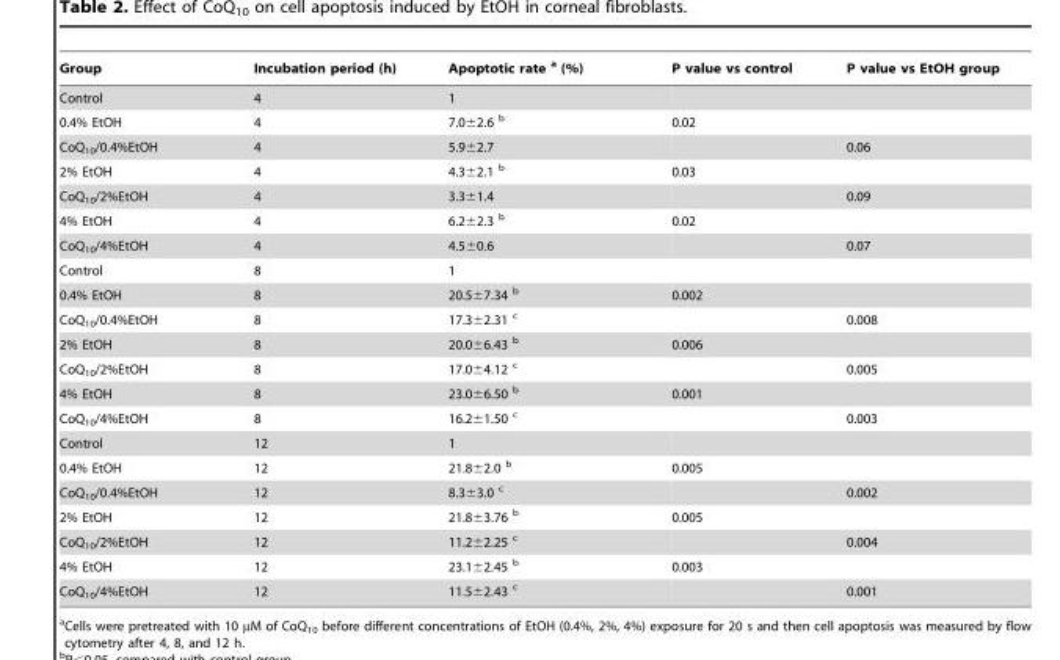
<table><thead><tr><td>Group</td><td>Incubation period (h)</td><td>Apoptotic rate a (%)</td><td>P value vs control</td><td>P value vs EtOH group</td></tr></thead><tbody><tr><td>Control</td><td>4</td><td>1</td><td></td><td></td></tr><tr><td>0.4% EtOH</td><td>4</td><td>7.0±2.6 b</td><td>0.02</td><td></td></tr><tr><td>CoQ<sub>10</sub>/0.4%EtOH</td><td>4</td><td>5.9±2.7</td><td></td><td>0.06</td></tr><tr><td>2% EtOH</td><td>4</td><td>4.3±2.1 b</td><td>0.03</td><td></td></tr><tr><td>CoQ<sub>10</sub>/2%EtOH</td><td>4</td><td>3.3±1.4</td><td></td><td>0.09</td></tr><tr><td>4% EtOH</td><td>4</td><td>6.2±2.3 b</td><td>0.02</td><td></td></tr><tr><td>CoQ<sub>10</sub>/4%EtOH</td><td>4</td><td>4.5±0.6</td><td></td><td>0.07</td></tr><tr><td>Control</td><td>8</td><td>1</td><td></td><td></td></tr><tr><td>0.4% EtOH</td><td>8</td><td>20.5±7.34 b</td><td>0.002</td><td></td></tr><tr><td>CoQ<sub>10</sub>/0.4%EtOH</td><td>8</td><td>17.3±2.31 c</td><td></td><td>0.008</td></tr><tr><td>2% EtOH</td><td>8</td><td>20.0±6.43 b</td><td>0.006</td><td></td></tr><tr><td>CoQ<sub>10</sub>/2%EtOH</td><td>8</td><td>17.0±4.12 c</td><td></td><td>0.005</td></tr><tr><td>4% EtOH</td><td>8</td><td>23.0±6.50 b</td><td>0.001</td><td></td></tr><tr><td>CoQ<sub>10</sub>/4%EtOH</td><td>8</td><td>16.2±1.50 c</td><td></td><td>0.003</td></tr><tr><td>Control</td><td>12</td><td>1</td><td></td><td></td></tr><tr><td>0.4% EtOH</td><td>12</td><td>21.8±2.0 b</td><td>0.005</td><td></td></tr><tr><td>CoQ<sub>10</sub>/0.4%EtOH</td><td>12</td><td>8.3±3.0 c</td><td></td><td>0.002</td></tr><tr><td>2% EtOH</td><td>12</td><td>21.8±3.76 b</td><td>0.005</td><td></td></tr><tr><td>CoQ<sub>10</sub>/2%EtOH</td><td>12</td><td>11.2±2.25 c</td><td></td><td>0.004</td></tr><tr><td>4% EtOH</td><td>12</td><td>23.1±2.45 b</td><td>0.003</td><td></td></tr><tr><td>CoQ<sub>10</sub>/4%EtOH</td><td>12</td><td>11.5±2.43 c</td><td></td><td>0.001</td></tr></tbody></table>